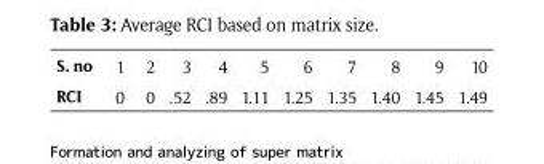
<table><tbody><tr><td>S. no</td><td>1</td><td>2</td><td>3</td><td>4</td><td>5</td><td>6</td><td>7</td><td>8</td><td>9</td><td>10</td></tr><tr><td>RCI</td><td>0</td><td>0</td><td>.52</td><td>.89</td><td>1.11</td><td>1.25</td><td>1.35</td><td>1.40</td><td>1.45</td><td>1.49</td></tr></tbody></table>